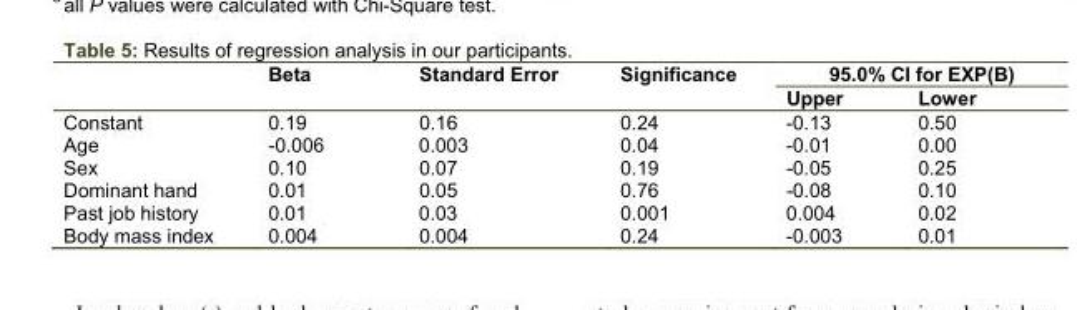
<table><thead><tr><td rowspan="2"></td><td rowspan="2">Beta</td><td rowspan="2">Standard Error</td><td rowspan="2">Significance</td><td colspan="2">95.0% CI for EXP(B)</td></tr><tr><td>Upper</td><td>Lower</td></tr></thead><tbody><tr><td>Constant</td><td>0.19</td><td>0.16</td><td>0.24</td><td>-0.13</td><td>0.50</td></tr><tr><td>Age</td><td>-0.006</td><td>0.003</td><td>0.04</td><td>-0.01</td><td>0.00</td></tr><tr><td>Sex</td><td>0.10</td><td>0.07</td><td>0.19</td><td>-0.05</td><td>0.25</td></tr><tr><td>Dominant hand</td><td>0.01</td><td>0.05</td><td>0.76</td><td>-0.08</td><td>0.10</td></tr><tr><td>Past job history</td><td>0.01</td><td>0.03</td><td>0.001</td><td>0.004</td><td>0.02</td></tr><tr><td>Body mass index</td><td>0.004</td><td>0.004</td><td>0.24</td><td>-0.003</td><td>0.01</td></tr></tbody></table>